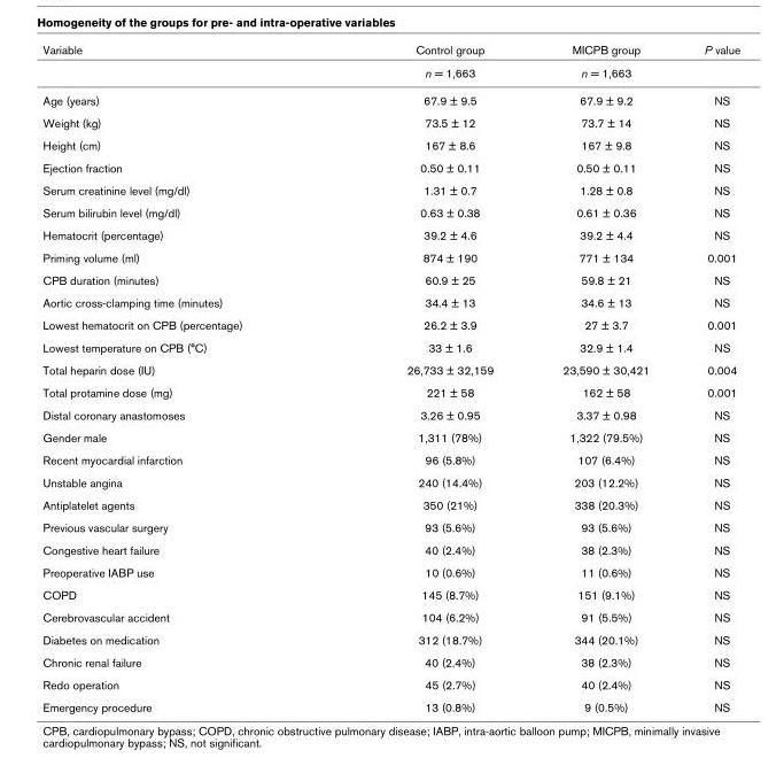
<table><thead><tr><td>Variable</td><td>Control group</td><td>MICPB group</td><td>P value</td></tr></thead><tbody><tr><td></td><td>n = 1,663</td><td>n = 1,663</td><td></td></tr><tr><td>Age (years)</td><td>67.9 ± 9.5</td><td>67.9 ± 9.2</td><td>NS</td></tr><tr><td>Weight (kg)</td><td>73.5 ± 12</td><td>73.7 ± 14</td><td>NS</td></tr><tr><td>Height (cm)</td><td>167 ± 8.6</td><td>167 ± 9.8</td><td>NS</td></tr><tr><td>Ejection fraction</td><td>0.50 ± 0.11</td><td>0.50 ± 0.11</td><td>NS</td></tr><tr><td>Serum creatinine level (mg/dl)</td><td>1.31 ± 0.7</td><td>1.28 ± 0.8</td><td>NS</td></tr><tr><td>Serum bilirubin level (mg/dl)</td><td>0.63 ± 0.38</td><td>0.61 ± 0.36</td><td>NS</td></tr><tr><td>Hematocrit (percentage)</td><td>39.2 ± 4.6</td><td>39.2 ± 4.4</td><td>NS</td></tr><tr><td>Priming volume (ml)</td><td>874 ± 190</td><td>771 ± 134</td><td>0.001</td></tr><tr><td>CPB duration (minutes)</td><td>60.9 ± 25</td><td>59.8 ± 21</td><td>NS</td></tr><tr><td>Aortic cross-clamping time (minutes)</td><td>34.4 ± 13</td><td>34.6 ± 13</td><td>NS</td></tr><tr><td>Lowest hematocrit on CPB (percentage)</td><td>26.2 ± 3.9</td><td>27 ± 3.7</td><td>0.001</td></tr><tr><td>Lowest temperature on CPB (°C)</td><td>33 ± 1.6</td><td>32.9 ± 1.4</td><td>NS</td></tr><tr><td>Total heparin dose (IU)</td><td>26,733 ± 32,159</td><td>23,590 ± 30,421</td><td>0.004</td></tr><tr><td>Total protamine dose (mg)</td><td>221 ± 58</td><td>162 ± 58</td><td>0.001</td></tr><tr><td>Distal coronary anastomoses</td><td>3.26 ± 0.95</td><td>3.37 ± 0.98</td><td>NS</td></tr><tr><td>Gender male</td><td>1,311 (78%)</td><td>1,322 (79.5%)</td><td>NS</td></tr><tr><td>Recent myocardial infarction</td><td>96 (5.8%)</td><td>107 (6.4%)</td><td>NS</td></tr><tr><td>Unstable angina</td><td>240 (14.4%)</td><td>203 (12.2%)</td><td>NS</td></tr><tr><td>Antiplatelet agents</td><td>350 (21%)</td><td>338 (20.3%)</td><td>NS</td></tr><tr><td>Previous vascular surgery</td><td>93 (5.6%)</td><td>93 (5.6%)</td><td>NS</td></tr><tr><td>Congestive heart failure</td><td>40 (2.4%)</td><td>38 (2.3%)</td><td>NS</td></tr><tr><td>Preoperative IABP use</td><td>10 (0.6%)</td><td>11 (0.6%)</td><td>NS</td></tr><tr><td>COPD</td><td>145 (8.7%)</td><td>151 (9.1%)</td><td>NS</td></tr><tr><td>Cerebrovascular accident</td><td>104 (6.2%)</td><td>91 (5.5%)</td><td>NS</td></tr><tr><td>Diabetes on medication</td><td>312 (18.7%)</td><td>344 (20.1%)</td><td>NS</td></tr><tr><td>Chronic renal failure</td><td>40 (2.4%)</td><td>38 (2.3%)</td><td>NS</td></tr><tr><td>Redo operation</td><td>45 (2.7%)</td><td>40 (2.4%)</td><td>NS</td></tr><tr><td>Emergency procedure</td><td>13 (0.8%)</td><td>9 (0.5%)</td><td>NS</td></tr></tbody></table>